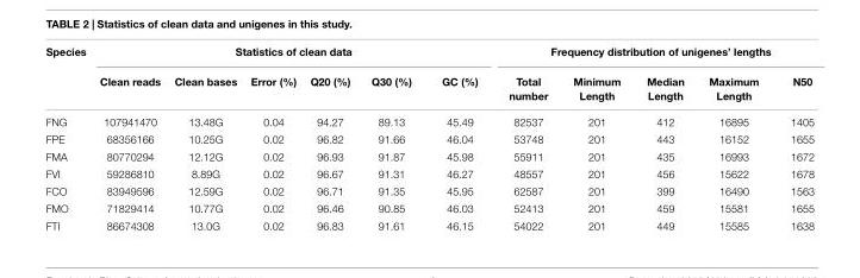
<table><thead><tr><td rowspan="2">Species</td><td colspan="6">Statistics of clean data</td><td colspan="5">Frequency distribution of unigenes’ lengths</td></tr><tr><td>Clean reads</td><td>Clean bases</td><td>Error (%)</td><td>Q20 (%)</td><td>Q30 (%)</td><td>GC (%)</td><td>Total number</td><td>Minimum Length</td><td>Median Length</td><td>Maximum Length</td><td>N50</td></tr></thead><tbody><tr><td>FNG</td><td>107941470</td><td>13.48G</td><td>0.04</td><td>94.27</td><td>89.13</td><td>45.49</td><td>82537</td><td>201</td><td>412</td><td>16895</td><td>1405</td></tr><tr><td>FPE</td><td>68356166</td><td>10.25G</td><td>0.02</td><td>96.82</td><td>91.66</td><td>46.04</td><td>53748</td><td>201</td><td>443</td><td>16152</td><td>1655</td></tr><tr><td>FMA</td><td>80770294</td><td>12.12G</td><td>0.02</td><td>96.93</td><td>91.87</td><td>45.98</td><td>55911</td><td>201</td><td>435</td><td>16993</td><td>1672</td></tr><tr><td>FVI</td><td>59286810</td><td>8.89G</td><td>0.02</td><td>96.67</td><td>91.31</td><td>46.27</td><td>48557</td><td>201</td><td>456</td><td>15622</td><td>1678</td></tr><tr><td>FCO</td><td>83949596</td><td>12.59G</td><td>0.02</td><td>96.71</td><td>91.35</td><td>45.95</td><td>62587</td><td>201</td><td>399</td><td>16490</td><td>1563</td></tr><tr><td>FMO</td><td>71829414</td><td>10.77G</td><td>0.02</td><td>96.46</td><td>90.85</td><td>46.03</td><td>52413</td><td>201</td><td>459</td><td>15581</td><td>1655</td></tr><tr><td>FTI</td><td>86674308</td><td>13.0G</td><td>0.02</td><td>96.83</td><td>91.61</td><td>46.15</td><td>54022</td><td>201</td><td>449</td><td>15585</td><td>1638</td></tr></tbody></table>